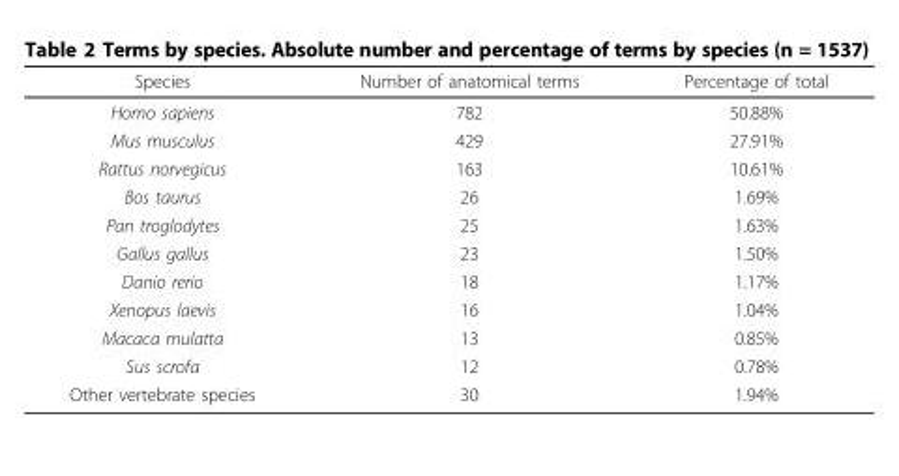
<table><thead><tr><td>Species</td><td>Number of anatomical terms</td><td>Percentage of total</td></tr></thead><tbody><tr><td>Homo sapiens</td><td>782</td><td>50.88%</td></tr><tr><td>Mus musculus</td><td>429</td><td>27.91%</td></tr><tr><td>Rattus norvegicus</td><td>163</td><td>10.61%</td></tr><tr><td>Bos taurus</td><td>26</td><td>1.69%</td></tr><tr><td>Pan troglodytes</td><td>25</td><td>1.63%</td></tr><tr><td>Gallus gallus</td><td>23</td><td>1.50%</td></tr><tr><td>Danio rerio</td><td>18</td><td>1.17%</td></tr><tr><td>Xenopus laevis</td><td>16</td><td>1.04%</td></tr><tr><td>Macaca mulatta</td><td>13</td><td>0.85%</td></tr><tr><td>Sus scrofa</td><td>12</td><td>0.78%</td></tr><tr><td>Other vertebrate species</td><td>30</td><td>1.94%</td></tr></tbody></table>